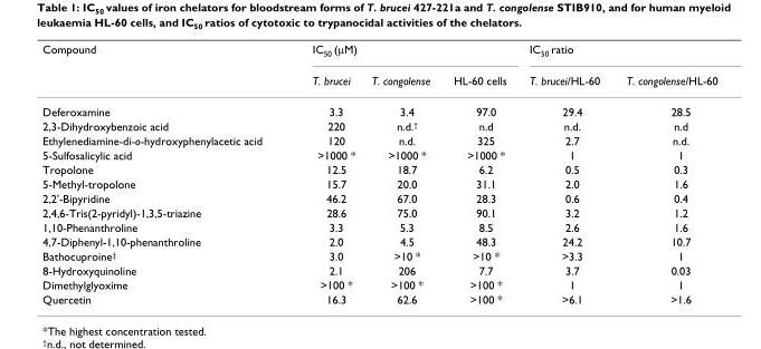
<table><thead><tr><td rowspan="2">Compound</td><td colspan="3">IC<sub>50</sub> (µM)</td><td colspan="2">IC<sub>50</sub> ratio</td></tr><tr><td>T. brucei</td><td>T. congolense</td><td>HL-60 cells</td><td>T. brucei/HL-60</td><td>T. congolense/HL-60</td></tr></thead><tbody><tr><td>Deferoxamine</td><td>3.3</td><td>3.4</td><td>97.0</td><td>29.4</td><td>28.5</td></tr><tr><td>2,3-Dihydroxybenzoic acid</td><td>220</td><td>n.d.<sup>†</sup></td><td>n.d</td><td>n.d.</td><td>n.d</td></tr><tr><td>Ethylenediamine-di-o-hydroxyphenylacetic acid</td><td>120</td><td>n.d.</td><td>325</td><td>2.7</td><td>n.d.</td></tr><tr><td>5-Sulfosalicylic acid</td><td>&gt;1000 *</td><td>&gt;1000 *</td><td>&gt;1000 *</td><td>1</td><td>1</td></tr><tr><td>Tropolone</td><td>12.5</td><td>18.7</td><td>6.2</td><td>0.5</td><td>0.3</td></tr><tr><td>5-Methyl-tropolone</td><td>15.7</td><td>20.0</td><td>31.1</td><td>2.0</td><td>1.6</td></tr><tr><td>2,2&#x27;-Bipyridine</td><td>46.2</td><td>67.0</td><td>28.3</td><td>0.6</td><td>0.4</td></tr><tr><td>2,4,6-Tris(2-pyridyl)-1,3,5-triazine</td><td>28.6</td><td>75.0</td><td>90.1</td><td>3.2</td><td>1.2</td></tr><tr><td>1,10-Phenanthroline</td><td>3.3</td><td>5.3</td><td>8.5</td><td>2.6</td><td>1.6</td></tr><tr><td>4,7-Diphenyl-1,10-phenanthroline</td><td>2.0</td><td>4.5</td><td>48.3</td><td>24.2</td><td>10.7</td></tr><tr><td>Bathocuproine<sup>‡</sup></td><td>3.0</td><td>&gt;10 *</td><td>&gt;10 *</td><td>&gt;3.3</td><td>1</td></tr><tr><td>8-Hydroxyquinoline</td><td>2.1</td><td>206</td><td>7.7</td><td>3.7</td><td>0.03</td></tr><tr><td>Dimethylglyoxime</td><td>&gt;100 *</td><td>&gt;100 *</td><td>&gt;100 *</td><td>1</td><td>1</td></tr><tr><td>Quercetin</td><td>16.3</td><td>62.6</td><td>&gt;100 *</td><td>&gt;6.1</td><td>&gt;1.6</td></tr></tbody></table>